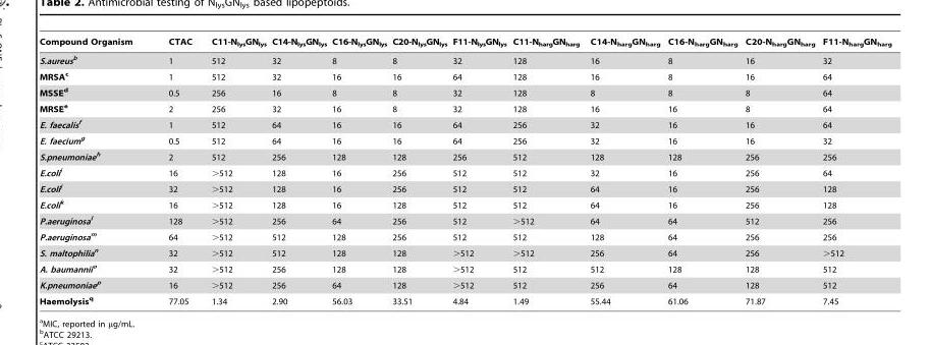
<table><thead><tr><td>Compound Organism</td><td>CTAC</td><td>C11-N<sub>lys</sub>GN<sub>lys</sub></td><td>C14-N<sub>lys</sub>GN<sub>lys</sub></td><td>C16-N<sub>lys</sub>GN<sub>lys</sub></td><td>C20-N<sub>lys</sub>GN<sub>lys</sub></td><td>F11-N<sub>lys</sub>GN<sub>lys</sub></td><td>C11-N<sub>harg</sub>GN<sub>harg</sub></td><td>C14-N<sub>harg</sub>GN<sub>harg</sub></td><td>C16-N<sub>harg</sub>GN<sub>harg</sub></td><td>C20-N<sub>harg</sub>GN<sub>harg</sub></td><td>F11-N<sub>harg</sub>GN<sub>harg</sub></td></tr></thead><tbody><tr><td>S.aureusb</td><td>1</td><td>512</td><td>32</td><td>8</td><td>8</td><td>32</td><td>128</td><td>16</td><td>8</td><td>16</td><td>32</td></tr><tr><td>MRSAc</td><td>1</td><td>512</td><td>32</td><td>16</td><td>16</td><td>64</td><td>128</td><td>16</td><td>8</td><td>16</td><td>64</td></tr><tr><td>MSSEd</td><td>0.5</td><td>256</td><td>16</td><td>8</td><td>8</td><td>32</td><td>128</td><td>8</td><td>8</td><td>8</td><td>64</td></tr><tr><td>MRSEe</td><td>2</td><td>256</td><td>32</td><td>16</td><td>8</td><td>32</td><td>128</td><td>16</td><td>16</td><td>8</td><td>64</td></tr><tr><td>E. faecalisf</td><td>1</td><td>512</td><td>64</td><td>16</td><td>16</td><td>64</td><td>256</td><td>32</td><td>16</td><td>16</td><td>64</td></tr><tr><td>E. faeciumg</td><td>0.5</td><td>512</td><td>64</td><td>16</td><td>16</td><td>64</td><td>256</td><td>32</td><td>16</td><td>16</td><td>32</td></tr><tr><td>S.pneumoniaeh</td><td>2</td><td>512</td><td>256</td><td>128</td><td>128</td><td>256</td><td>512</td><td>128</td><td>128</td><td>256</td><td>256</td></tr><tr><td>E.colii</td><td>16</td><td>&gt;512</td><td>128</td><td>16</td><td>256</td><td>512</td><td>512</td><td>32</td><td>16</td><td>256</td><td>64</td></tr><tr><td>E.colij</td><td>32</td><td>&gt;512</td><td>128</td><td>16</td><td>256</td><td>512</td><td>512</td><td>64</td><td>16</td><td>256</td><td>128</td></tr><tr><td>E.colik</td><td>16</td><td>&gt;512</td><td>128</td><td>16</td><td>128</td><td>512</td><td>512</td><td>64</td><td>16</td><td>256</td><td>128</td></tr><tr><td>P.aeruginosal</td><td>128</td><td>&gt;512</td><td>256</td><td>64</td><td>256</td><td>512</td><td>&gt;512</td><td>64</td><td>64</td><td>512</td><td>256</td></tr><tr><td>P.aeruginosam</td><td>64</td><td>&gt;512</td><td>512</td><td>128</td><td>256</td><td>512</td><td>512</td><td>128</td><td>64</td><td>256</td><td>256</td></tr><tr><td>S. maltophilian</td><td>32</td><td>&gt;512</td><td>512</td><td>128</td><td>128</td><td>&gt;512</td><td>&gt;512</td><td>256</td><td>64</td><td>256</td><td>&gt;512</td></tr><tr><td>A. baumanniio</td><td>32</td><td>&gt;512</td><td>256</td><td>128</td><td>128</td><td>&gt;512</td><td>512</td><td>512</td><td>128</td><td>128</td><td>512</td></tr><tr><td>K.pneumoniaep</td><td>16</td><td>&gt;512</td><td>256</td><td>64</td><td>128</td><td>&gt;512</td><td>512</td><td>256</td><td>64</td><td>128</td><td>512</td></tr><tr><td>Haemolysisq</td><td>77.05</td><td>1.34</td><td>2.90</td><td>56.03</td><td>33.51</td><td>4.84</td><td>1.49</td><td>55.44</td><td>61.06</td><td>71.87</td><td>7.45</td></tr></tbody></table>